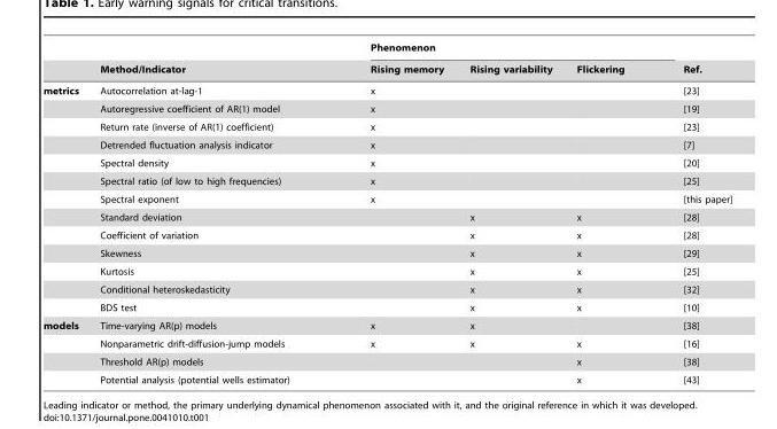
<table><thead><tr><td rowspan="2"></td><td rowspan="2">Method/Indicator</td><td colspan="3">Phenomenon</td><td rowspan="2">Ref.</td></tr><tr><td>Rising memory</td><td>Rising variability</td><td>Flickering</td></tr></thead><tbody><tr><td rowspan="13">metrics</td><td>Autocorrelation at-lag-1</td><td>x</td><td></td><td></td><td>[23]</td></tr><tr><td>Autoregressive coefficient of AR(1) model</td><td>x</td><td></td><td></td><td>[19]</td></tr><tr><td>Return rate (inverse of AR(1) coefficient)</td><td>x</td><td></td><td></td><td>[23]</td></tr><tr><td>Detrended fluctuation analysis indicator</td><td>x</td><td></td><td></td><td>[7]</td></tr><tr><td>Spectral density</td><td>x</td><td></td><td></td><td>[20]</td></tr><tr><td>Spectral ratio (of low to high frequencies)</td><td>x</td><td></td><td></td><td>[25]</td></tr><tr><td>Spectral exponent</td><td>x</td><td></td><td></td><td>[this paper]</td></tr><tr><td>Standard deviation</td><td></td><td>x</td><td>x</td><td>[28]</td></tr><tr><td>Coefficient of variation</td><td></td><td>x</td><td>x</td><td>[28]</td></tr><tr><td>Skewness</td><td></td><td>x</td><td>x</td><td>[29]</td></tr><tr><td>Kurtosis</td><td></td><td>x</td><td>x</td><td>[25]</td></tr><tr><td>Conditional heteroskedasticity</td><td></td><td>x</td><td>x</td><td>[32]</td></tr><tr><td>BDS test</td><td></td><td>x</td><td>x</td><td>[10]</td></tr><tr><td rowspan="4">models</td><td>Time-varying AR(p) models</td><td>x</td><td>x</td><td></td><td>[38]</td></tr><tr><td>Nonparametric drift-diffusion-jump models</td><td>x</td><td>x</td><td>x</td><td>[16]</td></tr><tr><td>Threshold AR(p) models</td><td></td><td></td><td>x</td><td>[38]</td></tr><tr><td>Potential analysis (potential wells estimator)</td><td></td><td></td><td>x</td><td>[43]</td></tr></tbody></table>